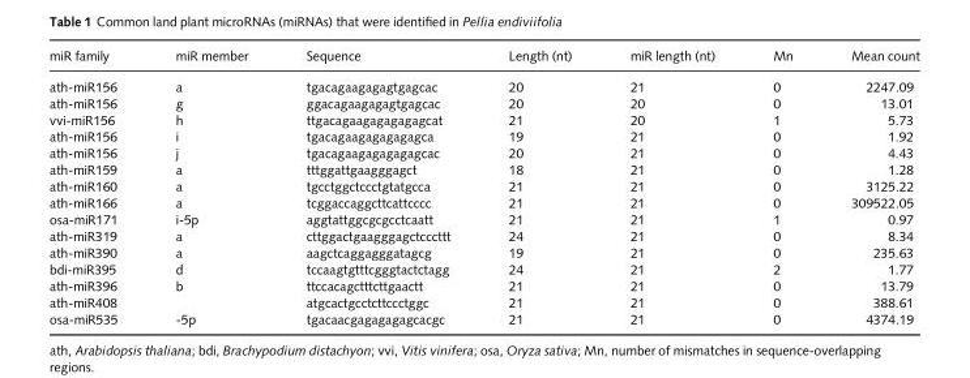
<table><thead><tr><td>miR family</td><td>miR member</td><td>Sequence</td><td>Length (nt)</td><td>miR length (nt)</td><td>Mn</td><td>Mean count</td></tr></thead><tbody><tr><td>ath-miR156</td><td>a</td><td>tgacagaagagagtgagcac</td><td>20</td><td>21</td><td>0</td><td>2247.09</td></tr><tr><td>ath-miR156</td><td>g</td><td>ggacagaagagagtgagcac</td><td>20</td><td>20</td><td>0</td><td>13.01</td></tr><tr><td>vvi-miR156</td><td>h</td><td>ttgacagaagagagagagcat</td><td>21</td><td>20</td><td>1</td><td>5.73</td></tr><tr><td>ath-miR156</td><td>i</td><td>tgacagaagagagagagca</td><td>19</td><td>21</td><td>0</td><td>1.92</td></tr><tr><td>ath-miR156</td><td>j</td><td>tgacagaagagagagagcac</td><td>20</td><td>21</td><td>0</td><td>4.43</td></tr><tr><td>ath-miR159</td><td>a</td><td>tttggattgaagggagct</td><td>18</td><td>21</td><td>0</td><td>1.28</td></tr><tr><td>ath-miR160</td><td>a</td><td>tgcctggctccctgtatgcca</td><td>21</td><td>21</td><td>0</td><td>3125.22</td></tr><tr><td>ath-miR166</td><td>a</td><td>tcggaccaggcttcattcccc</td><td>21</td><td>21</td><td>0</td><td>309522.05</td></tr><tr><td>osa-miR171</td><td>i-5p</td><td>aggtattggcgcgcctcaatt</td><td>21</td><td>21</td><td>1</td><td>0.97</td></tr><tr><td>ath-miR319</td><td>a</td><td>cttggactgaagggagctcccttt</td><td>24</td><td>21</td><td>0</td><td>8.34</td></tr><tr><td>ath-miR390</td><td>a</td><td>aagctcaggagggatagcg</td><td>19</td><td>21</td><td>0</td><td>235.63</td></tr><tr><td>bdi-miR395</td><td>d</td><td>tccaagtgtttcgggtactctagg</td><td>24</td><td>21</td><td>2</td><td>1.77</td></tr><tr><td>ath-miR396</td><td>b</td><td>ttccacagctttcttgaactt</td><td>21</td><td>21</td><td>0</td><td>13.79</td></tr><tr><td>ath-miR408</td><td></td><td>atgcactgcctcttccctggc</td><td>21</td><td>21</td><td>0</td><td>388.61</td></tr><tr><td>osa-miR535</td><td>-5p</td><td>tgacaacgagagagagcacgc</td><td>21</td><td>21</td><td>0</td><td>4374.19</td></tr></tbody></table>